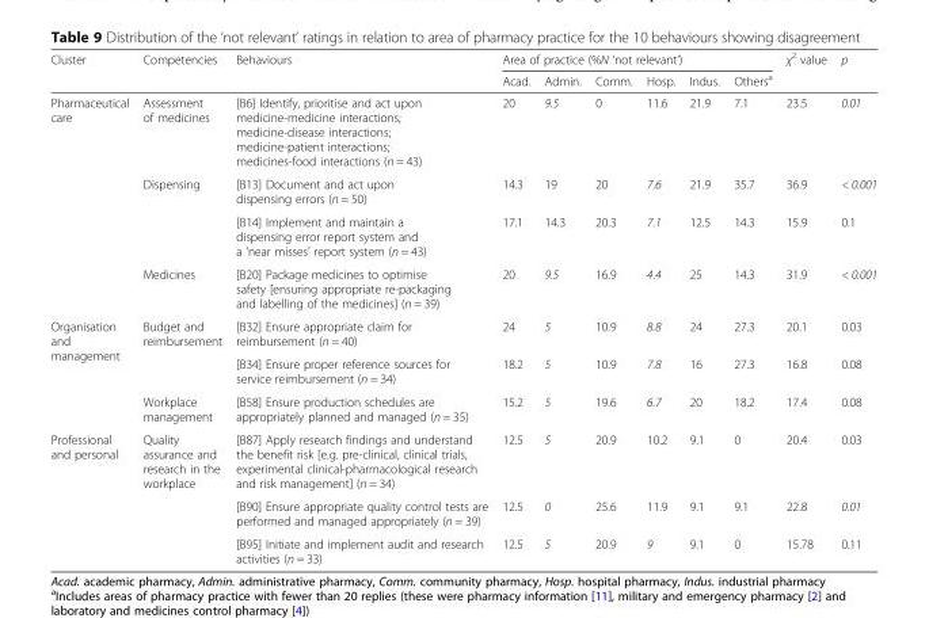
<table><thead><tr><td rowspan="2">Cluster</td><td rowspan="2">Competencies</td><td rowspan="2">Behaviours</td><td colspan="6">Area of practice (%N ‘not relevant’)</td><td rowspan="2">χ<sup>2</sup> value</td><td rowspan="2">p</td></tr><tr><td>Acad.</td><td>Admin.</td><td>Comm.</td><td>Hosp.</td><td>Indus.</td><td>Others<sup>a</sup></td></tr></thead><tbody><tr><td rowspan="4">Pharmaceutical care</td><td>Assessment of medicines</td><td>[B6] Identify, prioritise and act upon medicine-medicine interactions; medicine-disease interactions; medicine-patient interactions; medicines-food interactions (n = 43)</td><td>20</td><td>9.5</td><td>0</td><td>11.6</td><td>21.9</td><td>7.1</td><td>23.5</td><td>0.01</td></tr><tr><td rowspan="2">Dispensing</td><td>[B13] Document and act upon dispensing errors (n = 50)</td><td>14.3</td><td>19</td><td>20</td><td>7.6</td><td>21.9</td><td>35.7</td><td>36.9</td><td>&lt; 0.001</td></tr><tr><td>[B14] Implement and maintain a dispensing error report system and a ‘near misses’ report system (n = 43)</td><td>17.1</td><td>14.3</td><td>20.3</td><td>7.1</td><td>12.5</td><td>14.3</td><td>15.9</td><td>0.1</td></tr><tr><td>Medicines</td><td>[B20] Package medicines to optimise safety [ensuring appropriate re-packaging and labelling of the medicines] (n = 39)</td><td>20</td><td>9.5</td><td>16.9</td><td>4.4</td><td>25</td><td>14.3</td><td>31.9</td><td>&lt; 0.001</td></tr><tr><td rowspan="3">Organisation and management</td><td rowspan="2">Budget and reimbursement</td><td>[B32] Ensure appropriate claim for reimbursement (n = 40)</td><td>24</td><td>5</td><td>10.9</td><td>8.8</td><td>24</td><td>27.3</td><td>20.1</td><td>0.03</td></tr><tr><td>[B34] Ensure proper reference sources for service reimbursement (n = 34)</td><td>18.2</td><td>5</td><td>10.9</td><td>7.8</td><td>16</td><td>27.3</td><td>16.8</td><td>0.08</td></tr><tr><td>Workplace management</td><td>[B58] Ensure production schedules are appropriately planned and managed (n = 35)</td><td>15.2</td><td>5</td><td>19.6</td><td>6.7</td><td>20</td><td>18.2</td><td>17.4</td><td>0.08</td></tr><tr><td rowspan="3">Professional and personal</td><td rowspan="3">Quality assurance and research in the workplace</td><td>[B87] Apply research findings and understand the benefit risk [e.g. pre-clinical, clinical trials, experimental clinical-pharmacological research and risk management] (n = 34)</td><td>12.5</td><td>5</td><td>20.9</td><td>10.2</td><td>9.1</td><td>0</td><td>20.4</td><td>0.03</td></tr><tr><td>[B90] Ensure appropriate quality control tests are performed and managed appropriately (n = 39)</td><td>12.5</td><td>0</td><td>25.6</td><td>11.9</td><td>9.1</td><td>9.1</td><td>22.8</td><td>0.01</td></tr><tr><td>[B95] Initiate and implement audit and research activities (n = 33)</td><td>12.5</td><td>5</td><td>20.9</td><td>9</td><td>9.1</td><td>0</td><td>15.78</td><td>0.11</td></tr></tbody></table>